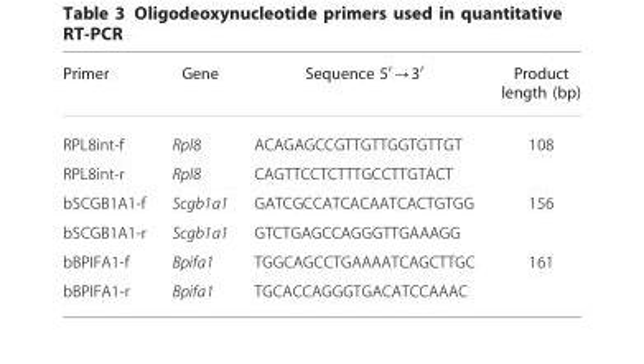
<table><thead><tr><td>Primer</td><td>Gene</td><td>Sequence 50-30</td><td>Product length (bp)</td></tr></thead><tbody><tr><td>RPL8int-f</td><td>Rpl8</td><td>ACAGAGCCGTTGTTGGTGTTGT</td><td>108</td></tr><tr><td>RPL8int-r</td><td>Rpl8</td><td>CAGTTCCTCTTTGCCTTGTACT</td><td></td></tr><tr><td>bSCGB1A1-f</td><td>Scgb1a1</td><td>GATCGCCATCACAATCACTGTGG</td><td>156</td></tr><tr><td>bSCGB1A1-r</td><td>Scgb1a1</td><td>GTCTGAGCCAGGGTTGAAAGG</td><td></td></tr><tr><td>bBPIFA1-f</td><td>Bpifa1</td><td>TGGCAGCCTGAAAATCAGCTTGC</td><td>161</td></tr><tr><td>bBPIFA1-r</td><td>Bpifa1</td><td>TGCACCAGGGTGACATCCAAAC</td><td></td></tr></tbody></table>